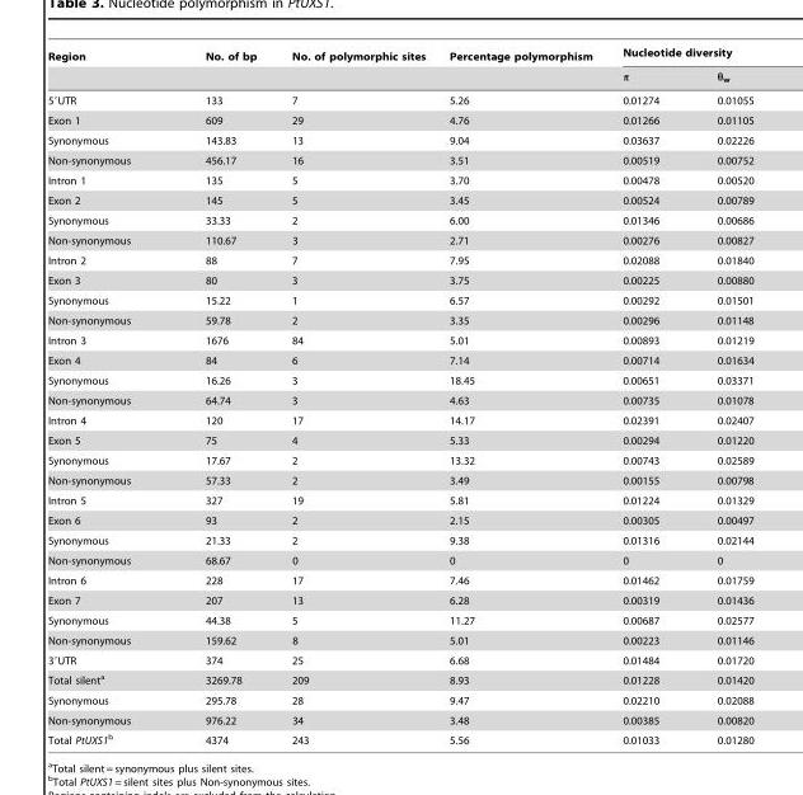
<table><thead><tr><td rowspan="2">Region</td><td rowspan="2">No. of bp</td><td rowspan="2">No. of polymorphic sites</td><td rowspan="2">Percentage polymorphism</td><td colspan="2">Nucleotide diversity</td></tr><tr><td>π</td><td>θ<sub>w</sub></td></tr></thead><tbody><tr><td>5′UTR</td><td>133</td><td>7</td><td>5.26</td><td>0.01274</td><td>0.01055</td></tr><tr><td>Exon 1</td><td>609</td><td>29</td><td>4.76</td><td>0.01266</td><td>0.01105</td></tr><tr><td>Synonymous</td><td>143.83</td><td>13</td><td>9.04</td><td>0.03637</td><td>0.02226</td></tr><tr><td>Non-synonymous</td><td>456.17</td><td>16</td><td>3.51</td><td>0.00519</td><td>0.00752</td></tr><tr><td>Intron 1</td><td>135</td><td>5</td><td>3.70</td><td>0.00478</td><td>0.00520</td></tr><tr><td>Exon 2</td><td>145</td><td>5</td><td>3.45</td><td>0.00524</td><td>0.00789</td></tr><tr><td>Synonymous</td><td>33.33</td><td>2</td><td>6.00</td><td>0.01346</td><td>0.00686</td></tr><tr><td>Non-synonymous</td><td>110.67</td><td>3</td><td>2.71</td><td>0.00276</td><td>0.00827</td></tr><tr><td>Intron 2</td><td>88</td><td>7</td><td>7.95</td><td>0.02088</td><td>0.01840</td></tr><tr><td>Exon 3</td><td>80</td><td>3</td><td>3.75</td><td>0.00225</td><td>0.00880</td></tr><tr><td>Synonymous</td><td>15.22</td><td>1</td><td>6.57</td><td>0.00292</td><td>0.01501</td></tr><tr><td>Non-synonymous</td><td>59.78</td><td>2</td><td>3.35</td><td>0.00296</td><td>0.01148</td></tr><tr><td>Intron 3</td><td>1676</td><td>84</td><td>5.01</td><td>0.00893</td><td>0.01219</td></tr><tr><td>Exon 4</td><td>84</td><td>6</td><td>7.14</td><td>0.00714</td><td>0.01634</td></tr><tr><td>Synonymous</td><td>16.26</td><td>3</td><td>18.45</td><td>0.00651</td><td>0.03371</td></tr><tr><td>Non-synonymous</td><td>64.74</td><td>3</td><td>4.63</td><td>0.00735</td><td>0.01078</td></tr><tr><td>Intron 4</td><td>120</td><td>17</td><td>14.17</td><td>0.02391</td><td>0.02407</td></tr><tr><td>Exon 5</td><td>75</td><td>4</td><td>5.33</td><td>0.00294</td><td>0.01220</td></tr><tr><td>Synonymous</td><td>17.67</td><td>2</td><td>13.32</td><td>0.00743</td><td>0.02589</td></tr><tr><td>Non-synonymous</td><td>57.33</td><td>2</td><td>3.49</td><td>0.00155</td><td>0.00798</td></tr><tr><td>Intron 5</td><td>327</td><td>19</td><td>5.81</td><td>0.01224</td><td>0.01329</td></tr><tr><td>Exon 6</td><td>93</td><td>2</td><td>2.15</td><td>0.00305</td><td>0.00497</td></tr><tr><td>Synonymous</td><td>21.33</td><td>2</td><td>9.38</td><td>0.01316</td><td>0.02144</td></tr><tr><td>Non-synonymous</td><td>68.67</td><td>0</td><td>0</td><td>0</td><td>0</td></tr><tr><td>Intron 6</td><td>228</td><td>17</td><td>7.46</td><td>0.01462</td><td>0.01759</td></tr><tr><td>Exon 7</td><td>207</td><td>13</td><td>6.28</td><td>0.00319</td><td>0.01436</td></tr><tr><td>Synonymous</td><td>44.38</td><td>5</td><td>11.27</td><td>0.00687</td><td>0.02577</td></tr><tr><td>Non-synonymous</td><td>159.62</td><td>8</td><td>5.01</td><td>0.00223</td><td>0.01146</td></tr><tr><td>3′UTR</td><td>374</td><td>25</td><td>6.68</td><td>0.01484</td><td>0.01720</td></tr><tr><td>Total silent<sup>a</sup></td><td>3269.78</td><td>209</td><td>8.93</td><td>0.01228</td><td>0.01420</td></tr><tr><td>Synonymous</td><td>295.78</td><td>28</td><td>9.47</td><td>0.02210</td><td>0.02088</td></tr><tr><td>Non-synonymous</td><td>976.22</td><td>34</td><td>3.48</td><td>0.00385</td><td>0.00820</td></tr><tr><td>Total PtUXS1b</td><td>4374</td><td>243</td><td>5.56</td><td>0.01033</td><td>0.01280</td></tr></tbody></table>